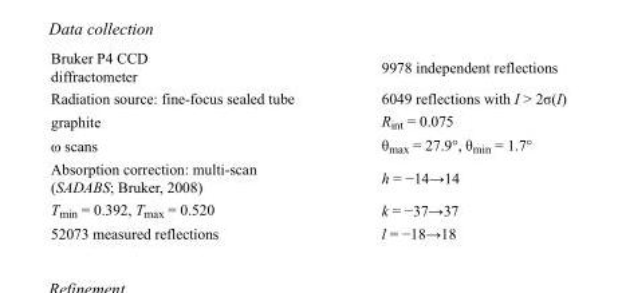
<table><tbody><tr><td>Bruker P4 CCD diffractometer</td><td>9978 independent reflections</td></tr><tr><td>Radiation source: fine-focus sealed tube</td><td>6049 reflections with I &gt; 2σ(I)</td></tr><tr><td>graphite</td><td>R<sub>int</sub> = 0.075</td></tr><tr><td>ω scans</td><td>θ<sub>max</sub> = 27.9°, θ<sub>min</sub> = 1.7°</td></tr><tr><td>Absorption correction: multi-scan (SADABS; Bruker, 2008)</td><td>h = −14→14</td></tr><tr><td>T<sub>min</sub> = 0.392, T<sub>max</sub> = 0.520</td><td>k = −37→37</td></tr><tr><td>52073 measured reflections</td><td>l = −18→18</td></tr></tbody></table>